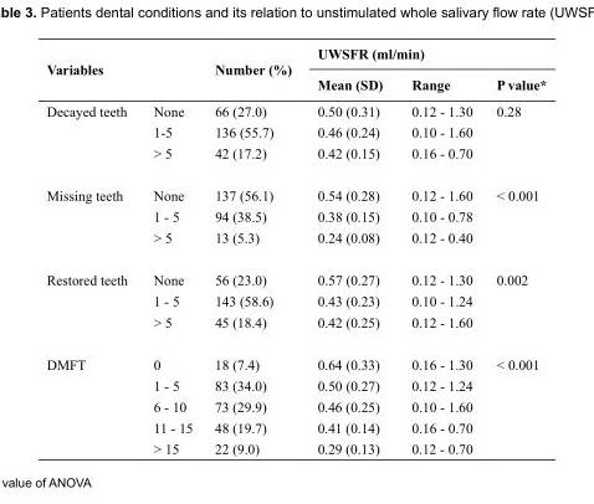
<table><thead><tr><td rowspan="2">Variables</td><td rowspan="2"></td><td rowspan="2">Number (%)</td><td colspan="3">UWSFR (ml/min)</td></tr><tr><td>Mean (SD)</td><td>Range</td><td>P value*</td></tr></thead><tbody><tr><td rowspan="3">Decayed teeth</td><td>None</td><td>66 (27.0)</td><td>0.50 (0.31)</td><td>0.12 - 1.30</td><td>0.28</td></tr><tr><td>1-5</td><td>136 (55.7)</td><td>0.46 (0.24)</td><td>0.10 - 1.60</td><td></td></tr><tr><td>&gt; 5</td><td>42 (17.2)</td><td>0.42 (0.15)</td><td>0.16 - 0.70</td><td></td></tr><tr><td rowspan="3">Missing teeth</td><td>None</td><td>137 (56.1)</td><td>0.54 (0.28)</td><td>0.12 - 1.60</td><td>&lt; 0.001</td></tr><tr><td>1 - 5</td><td>94 (38.5)</td><td>0.38 (0.15)</td><td>0.10 - 0.78</td><td></td></tr><tr><td>&gt; 5</td><td>13 (5.3)</td><td>0.24 (0.08)</td><td>0.12 - 0.40</td><td></td></tr><tr><td rowspan="3">Restored teeth</td><td>None</td><td>56 (23.0)</td><td>0.57 (0.27)</td><td>0.12 - 1.30</td><td>0.002</td></tr><tr><td>1 - 5</td><td>143 (58.6)</td><td>0.43 (0.23)</td><td>0.10 - 1.24</td><td></td></tr><tr><td>&gt; 5</td><td>45 (18.4)</td><td>0.42 (0.25)</td><td>0.12 - 1.60</td><td></td></tr><tr><td rowspan="5">DMFT</td><td>0</td><td>18 (7.4)</td><td>0.64 (0.33)</td><td>0.16 - 1.30</td><td>&lt; 0.001</td></tr><tr><td>1 - 5</td><td>83 (34.0)</td><td>0.50 (0.27)</td><td>0.12 - 1.24</td><td></td></tr><tr><td>6 - 10</td><td>73 (29.9)</td><td>0.46 (0.25)</td><td>0.10 - 1.60</td><td></td></tr><tr><td>11 - 15</td><td>48 (19.7)</td><td>0.41 (0.14)</td><td>0.16 - 0.70</td><td></td></tr><tr><td>&gt; 15</td><td>22 (9.0)</td><td>0.29 (0.13)</td><td>0.12 - 0.70</td><td></td></tr></tbody></table>